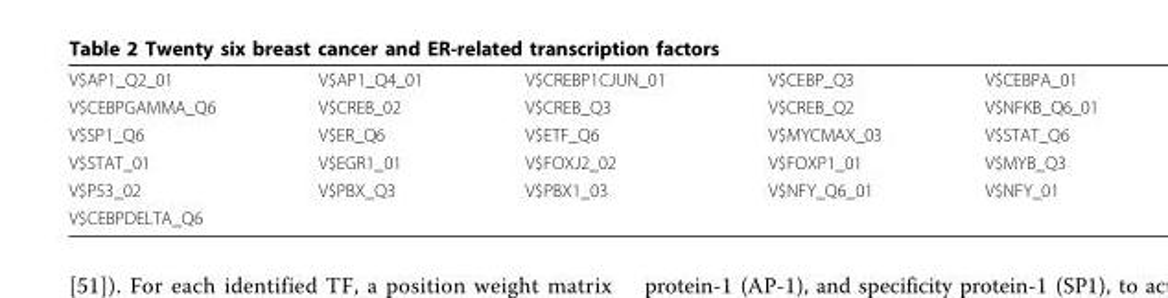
<table><tbody><tr><td>V$AP1_Q2_01</td><td>V$AP1_Q4_01</td><td>V$CREBP1CJUN_01</td><td>V$CEBP_Q3</td><td>V$CEBPA_01</td></tr><tr><td>V$CEBPGAMMA_Q6</td><td>V$CREB_02</td><td>V$CREB_Q3</td><td>V$CREB_Q2</td><td>V$NFKB_Q6_01</td></tr><tr><td>V$SP1_Q6</td><td>V$ER_Q6</td><td>V$ETF_Q6</td><td>V$MYCMAX_03</td><td>V$STAT_Q6</td></tr><tr><td>V$STAT_01</td><td>V$EGR1_01</td><td>V$FOXJ2_02</td><td>V$FOXP1_01</td><td>V$MYB_Q3</td></tr><tr><td>V$P53_02</td><td>V$PBX_Q3</td><td>V$PBX1_03</td><td>V$NFY_Q6_01</td><td>V$NFY_01</td></tr><tr><td>V$CEBPDELTA_Q6</td><td></td><td></td><td></td><td></td></tr></tbody></table>